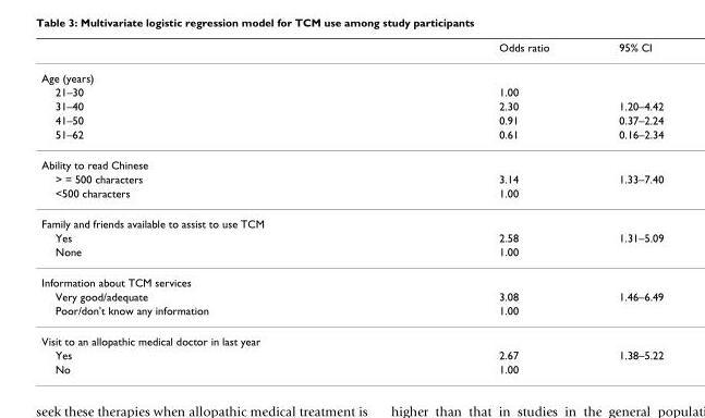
<table><thead><tr><td></td><td>Odds ratio</td><td>95% CI</td></tr></thead><tbody><tr><td colspan="3">Age (years)</td></tr><tr><td>21–30</td><td>1.00</td><td></td></tr><tr><td>31–40</td><td>2.30</td><td>1.20–4.42</td></tr><tr><td>41–50</td><td>0.91</td><td>0.37–2.24</td></tr><tr><td>51–62</td><td>0.61</td><td>0.16–2.34</td></tr><tr><td colspan="3">Ability to read Chinese</td></tr><tr><td>&gt; = 500 characters</td><td>3.14</td><td>1.33–7.40</td></tr><tr><td>&lt;500 characters</td><td>1.00</td><td></td></tr><tr><td colspan="3">Family and friends available to assist to use TCM</td></tr><tr><td>Yes</td><td>2.58</td><td>1.31–5.09</td></tr><tr><td>None</td><td>1.00</td><td></td></tr><tr><td colspan="3">Information about TCM services</td></tr><tr><td>Very good/adequate</td><td>3.08</td><td>1.46–6.49</td></tr><tr><td>Poor/don&#x27;t know any information</td><td>1.00</td><td></td></tr><tr><td colspan="3">Visit to an allopathic medical doctor in last year</td></tr><tr><td>Yes</td><td>2.67</td><td>1.38–5.22</td></tr><tr><td>No</td><td>1.00</td><td></td></tr></tbody></table>